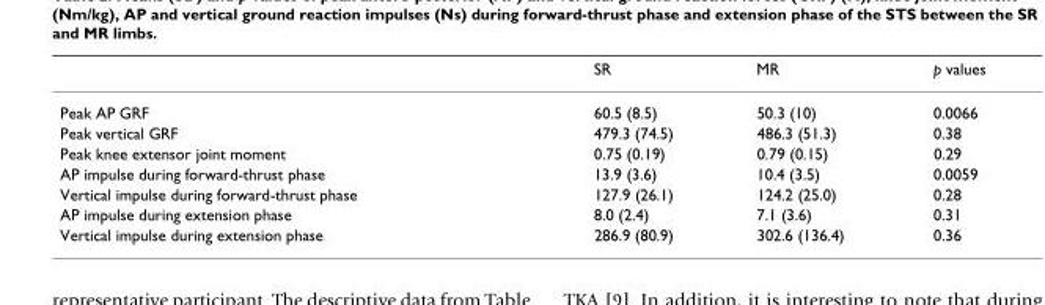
<table><thead><tr><td></td><td>SR</td><td>MR</td><td>p values</td></tr></thead><tbody><tr><td>Peak AP GRF</td><td>60.5 (8.5)</td><td>50.3 (10)</td><td>0.0066</td></tr><tr><td>Peak vertical GRF</td><td>479.3 (74.5)</td><td>486.3 (51.3)</td><td>0.38</td></tr><tr><td>Peak knee extensor joint moment</td><td>0.75 (0.19)</td><td>0.79 (0.15)</td><td>0.29</td></tr><tr><td>AP impulse during forward-thrust phase</td><td>13.9 (3.6)</td><td>10.4 (3.5)</td><td>0.0059</td></tr><tr><td>Vertical impulse during forward-thrust phase</td><td>127.9 (26.1)</td><td>124.2 (25.0)</td><td>0.28</td></tr><tr><td>AP impulse during extension phase</td><td>8.0 (2.4)</td><td>7.1 (3.6)</td><td>0.31</td></tr><tr><td>Vertical impulse during extension phase</td><td>286.9 (80.9)</td><td>302.6 (136.4)</td><td>0.36</td></tr></tbody></table>